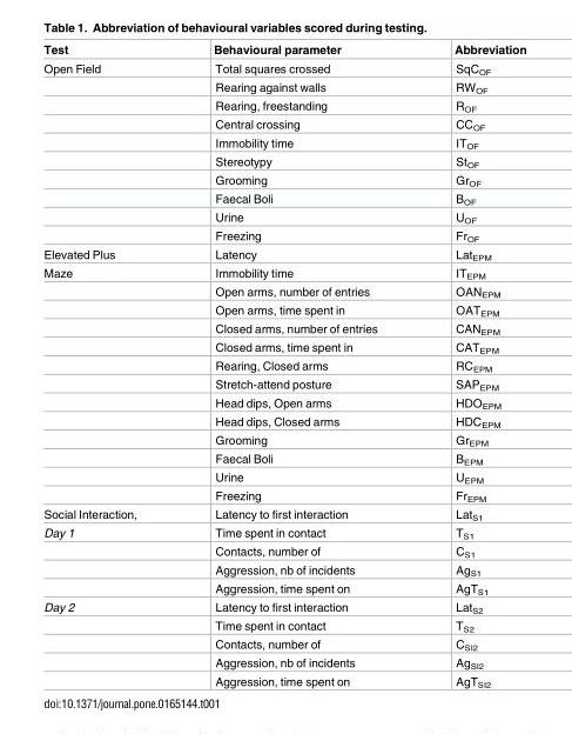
<table><thead><tr><td>Test</td><td>Behavioural parameter</td><td>Abbreviation</td></tr></thead><tbody><tr><td rowspan="10">Open Field</td><td>Total squares crossed</td><td>SqC<sub>OF</sub></td></tr><tr><td>Rearing against walls</td><td>RW<sub>OF</sub></td></tr><tr><td>Rearing, freestanding</td><td>R<sub>OF</sub></td></tr><tr><td>Central crossing</td><td>CC<sub>OF</sub></td></tr><tr><td>Immobility time</td><td>IT<sub>OF</sub></td></tr><tr><td>Stereotypy</td><td>St<sub>OF</sub></td></tr><tr><td>Grooming</td><td>Gr<sub>OF</sub></td></tr><tr><td>Faecal Boli</td><td>B<sub>OF</sub></td></tr><tr><td>Urine</td><td>U<sub>OF</sub></td></tr><tr><td>Freezing</td><td>Fr<sub>OF</sub></td></tr><tr><td>Elevated Plus</td><td>Latency</td><td>Lat<sub>EPM</sub></td></tr><tr><td rowspan="13">Maze</td><td>Immobility time</td><td>IT<sub>EPM</sub></td></tr><tr><td>Open arms, number of entries</td><td>OAN<sub>EPM</sub></td></tr><tr><td>Open arms, time spent in</td><td>OAT<sub>EPM</sub></td></tr><tr><td>Closed arms, number of entries</td><td>CAN<sub>EPM</sub></td></tr><tr><td>Closed arms, time spent in</td><td>CAT<sub>EPM</sub></td></tr><tr><td>Rearing, Closed arms</td><td>RC<sub>EPM</sub></td></tr><tr><td>Stretch-attend posture</td><td>SAP<sub>EPM</sub></td></tr><tr><td>Head dips, Open arms</td><td>HDO<sub>EPM</sub></td></tr><tr><td>Head dips, Closed arms</td><td>HDC<sub>EPM</sub></td></tr><tr><td>Grooming</td><td>Gr<sub>EPM</sub></td></tr><tr><td>Faecal Boli</td><td>B<sub>EPM</sub></td></tr><tr><td>Urine</td><td>U<sub>EPM</sub></td></tr><tr><td>Freezing</td><td>Fr<sub>EPM</sub></td></tr><tr><td>Social Interaction,</td><td>Latency to first interaction</td><td>Lat<sub>S1</sub></td></tr><tr><td rowspan="4">Day 1</td><td>Time spent in contact</td><td>T<sub>S1</sub></td></tr><tr><td>Contacts, number of</td><td>C<sub>S1</sub></td></tr><tr><td>Aggression, nb of incidents</td><td>Ag<sub>S1</sub></td></tr><tr><td>Aggression, time spent on</td><td>AgT<sub>S1</sub></td></tr><tr><td rowspan="5">Day 2</td><td>Latency to first interaction</td><td>Lat<sub>S2</sub></td></tr><tr><td>Time spent in contact</td><td>T<sub>S2</sub></td></tr><tr><td>Contacts, number of</td><td>C<sub>SI2</sub></td></tr><tr><td>Aggression, nb of incidents</td><td>Ag<sub>SI2</sub></td></tr><tr><td>Aggression, time spent on</td><td>AgT<sub>SI2</sub></td></tr></tbody></table>